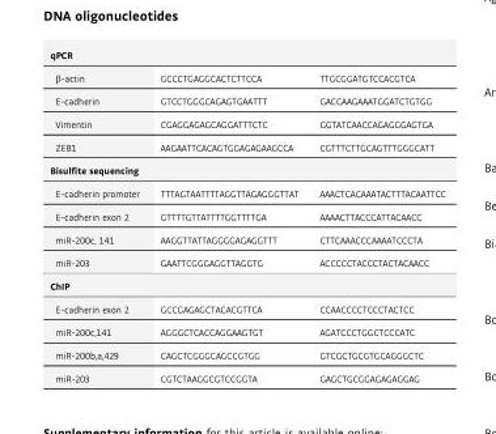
<table><tbody><tr><td colspan="3">qPCR</td></tr><tr><td>β-actin</td><td>GCCCTGAGGCACTCTTCCA</td><td>TTGCGGATGTCCACGTCA</td></tr><tr><td>E-cadherin</td><td>GTCCTGGGCAGAGTGAATTT</td><td>GACCAAGAAATGGATCTGTGG</td></tr><tr><td>Vimentin</td><td>CGAGGAGAGCAGGATTTCTC</td><td>GGTATCAACCAGAGGGAGTGA</td></tr><tr><td>ZEB1</td><td>AAGAATTCACAGTGGAGAGAAGCCA</td><td>CGTTTCTTGCAGTTTGGGCATT</td></tr><tr><td colspan="3">Bisulfite sequencing</td></tr><tr><td>E-cadherin promoter</td><td>TTTAGTAATTTTAGGTTAGAGGGTTAT</td><td>AAACTCACAAATACTTTACAATTCC</td></tr><tr><td>E-cadherin exon 2</td><td>GTTTTGTTATTTTGGTTTTGA</td><td>AAAACTTACCCATTACAACC</td></tr><tr><td>miR-200c, 141</td><td>AAGGTTATTAGGGGAGAGGTTT</td><td>CTTCAAACCCAAAATCCCTA</td></tr><tr><td>miR-203</td><td>GAATTCGGGAGGTTAGGTG</td><td>ACCCCCTACCCTACTACAACC</td></tr><tr><td colspan="3">ChIP</td></tr><tr><td>E-cadherin exon 2</td><td>GCCGAGAGCTACACGTTCA</td><td>CCAACCCCTCCCTACTCC</td></tr><tr><td>miR-200c,141</td><td>AGGGCTCACCAGGAAGTGT</td><td>AGATCCCTGGCTCCCATC</td></tr><tr><td>miR-200b,a,429</td><td>CAGCTCGGGCAGCCGTGG</td><td>GTCGCTGCGTGCAGGGCTC</td></tr><tr><td>miR-203</td><td>CGTCTAAGGCGTCCGGTA</td><td>GAGCTGCGGAGAGAGGAG</td></tr></tbody></table>